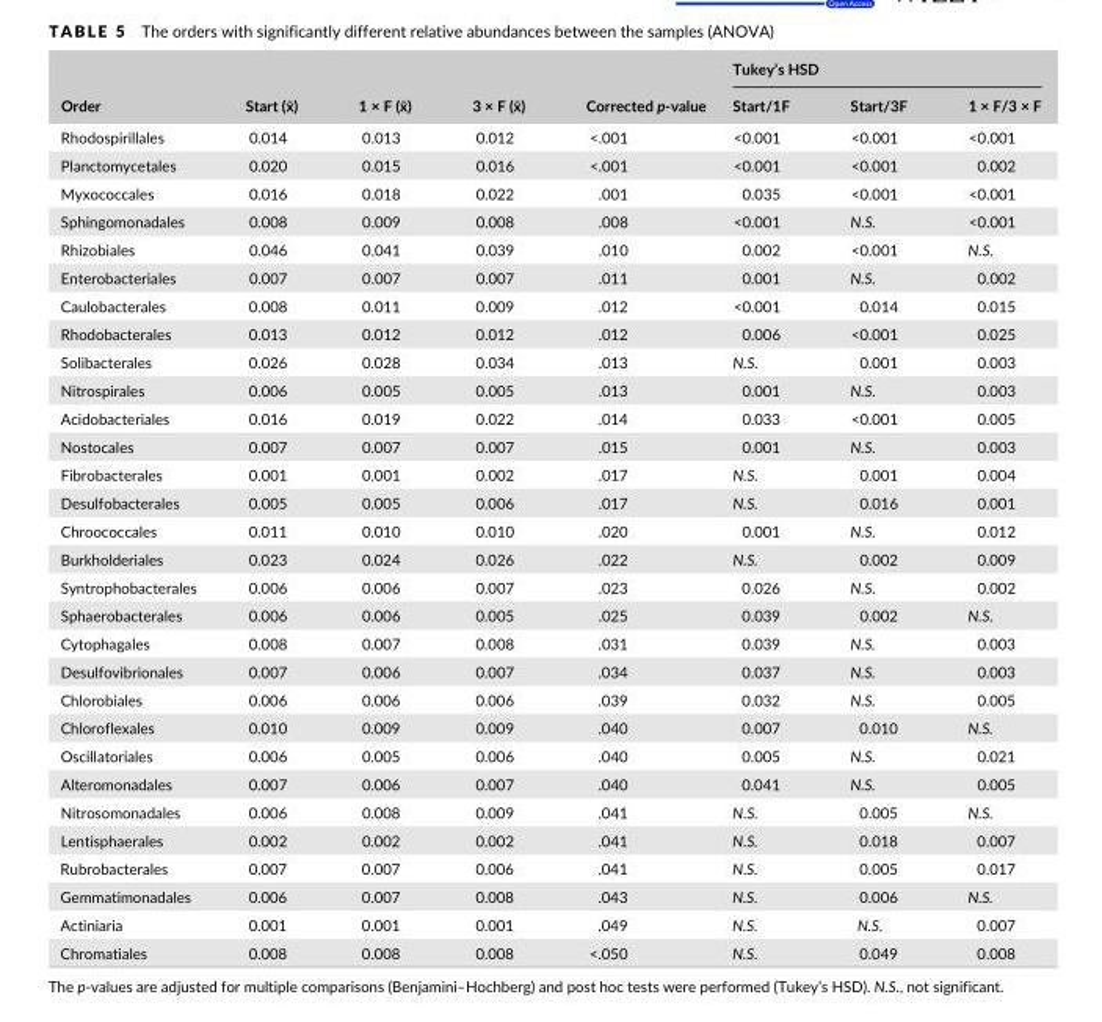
<table><thead><tr><td rowspan="2">Order</td><td rowspan="2">Start (x̄)</td><td rowspan="2">1 × F (x̄)</td><td rowspan="2">3 × F (x̄)</td><td rowspan="2">Corrected p- value</td><td colspan="3">Tukey’s HSD</td></tr><tr><td>Start/1F</td><td>Start/3F</td><td>1 × F/3 × F</td></tr></thead><tbody><tr><td>Rhodospirillales</td><td>0.014</td><td>0.013</td><td>0.012</td><td>&lt;.001</td><td>&lt;0.001</td><td>&lt;0.001</td><td>&lt;0.001</td></tr><tr><td>Planctomycetales</td><td>0.020</td><td>0.015</td><td>0.016</td><td>&lt;.001</td><td>&lt;0.001</td><td>&lt;0.001</td><td>0.002</td></tr><tr><td>Myxococcales</td><td>0.016</td><td>0.018</td><td>0.022</td><td>.001</td><td>0.035</td><td>&lt;0.001</td><td>&lt;0.001</td></tr><tr><td>Sphingomonadales</td><td>0.008</td><td>0.009</td><td>0.008</td><td>.008</td><td>&lt;0.001</td><td>N.S.</td><td>&lt;0.001</td></tr><tr><td>Rhizobiales</td><td>0.046</td><td>0.041</td><td>0.039</td><td>.010</td><td>0.002</td><td>&lt;0.001</td><td>N.S.</td></tr><tr><td>Enterobacteriales</td><td>0.007</td><td>0.007</td><td>0.007</td><td>.011</td><td>0.001</td><td>N.S.</td><td>0.002</td></tr><tr><td>Caulobacterales</td><td>0.008</td><td>0.011</td><td>0.009</td><td>.012</td><td>&lt;0.001</td><td>0.014</td><td>0.015</td></tr><tr><td>Rhodobacterales</td><td>0.013</td><td>0.012</td><td>0.012</td><td>.012</td><td>0.006</td><td>&lt;0.001</td><td>0.025</td></tr><tr><td>Solibacterales</td><td>0.026</td><td>0.028</td><td>0.034</td><td>.013</td><td>N.S.</td><td>0.001</td><td>0.003</td></tr><tr><td>Nitrospirales</td><td>0.006</td><td>0.005</td><td>0.005</td><td>.013</td><td>0.001</td><td>N.S.</td><td>0.003</td></tr><tr><td>Acidobacteriales</td><td>0.016</td><td>0.019</td><td>0.022</td><td>.014</td><td>0.033</td><td>&lt;0.001</td><td>0.005</td></tr><tr><td>Nostocales</td><td>0.007</td><td>0.007</td><td>0.007</td><td>.015</td><td>0.001</td><td>N.S.</td><td>0.003</td></tr><tr><td>Fibrobacterales</td><td>0.001</td><td>0.001</td><td>0.002</td><td>.017</td><td>N.S.</td><td>0.001</td><td>0.004</td></tr><tr><td>Desulfobacterales</td><td>0.005</td><td>0.005</td><td>0.006</td><td>.017</td><td>N.S.</td><td>0.016</td><td>0.001</td></tr><tr><td>Chroococcales</td><td>0.011</td><td>0.010</td><td>0.010</td><td>.020</td><td>0.001</td><td>N.S.</td><td>0.012</td></tr><tr><td>Burkholderiales</td><td>0.023</td><td>0.024</td><td>0.026</td><td>.022</td><td>N.S.</td><td>0.002</td><td>0.009</td></tr><tr><td>Syntrophobacterales</td><td>0.006</td><td>0.006</td><td>0.007</td><td>.023</td><td>0.026</td><td>N.S.</td><td>0.002</td></tr><tr><td>Sphaerobacterales</td><td>0.006</td><td>0.006</td><td>0.005</td><td>.025</td><td>0.039</td><td>0.002</td><td>N.S.</td></tr><tr><td>Cytophagales</td><td>0.008</td><td>0.007</td><td>0.008</td><td>.031</td><td>0.039</td><td>N.S.</td><td>0.003</td></tr><tr><td>Desulfovibrionales</td><td>0.007</td><td>0.006</td><td>0.007</td><td>.034</td><td>0.037</td><td>N.S.</td><td>0.003</td></tr><tr><td>Chlorobiales</td><td>0.006</td><td>0.006</td><td>0.006</td><td>.039</td><td>0.032</td><td>N.S.</td><td>0.005</td></tr><tr><td>Chloroflexales</td><td>0.010</td><td>0.009</td><td>0.009</td><td>.040</td><td>0.007</td><td>0.010</td><td>N.S.</td></tr><tr><td>Oscillatoriales</td><td>0.006</td><td>0.005</td><td>0.006</td><td>.040</td><td>0.005</td><td>N.S.</td><td>0.021</td></tr><tr><td>Alteromonadales</td><td>0.007</td><td>0.006</td><td>0.007</td><td>.040</td><td>0.041</td><td>N.S.</td><td>0.005</td></tr><tr><td>Nitrosomonadales</td><td>0.006</td><td>0.008</td><td>0.009</td><td>.041</td><td>N.S.</td><td>0.005</td><td>N.S.</td></tr><tr><td>Lentisphaerales</td><td>0.002</td><td>0.002</td><td>0.002</td><td>.041</td><td>N.S.</td><td>0.018</td><td>0.007</td></tr><tr><td>Rubrobacterales</td><td>0.007</td><td>0.007</td><td>0.006</td><td>.041</td><td>N.S.</td><td>0.005</td><td>0.017</td></tr><tr><td>Gemmatimonadales</td><td>0.006</td><td>0.007</td><td>0.008</td><td>.043</td><td>N.S.</td><td>0.006</td><td>N.S.</td></tr><tr><td>Actiniaria</td><td>0.001</td><td>0.001</td><td>0.001</td><td>.049</td><td>N.S.</td><td>N.S.</td><td>0.007</td></tr><tr><td>Chromatiales</td><td>0.008</td><td>0.008</td><td>0.008</td><td>&lt;.050</td><td>N.S.</td><td>0.049</td><td>0.008</td></tr></tbody></table>